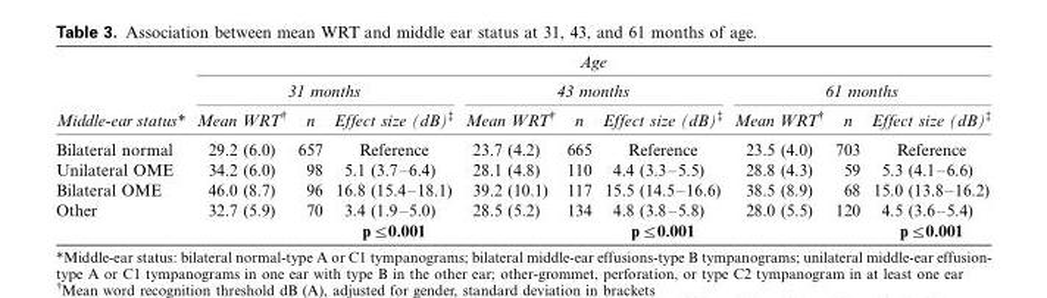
<table><thead><tr><td rowspan="3">Middle-ear status*</td><td colspan="9">Age</td></tr><tr><td colspan="3">31 months</td><td colspan="3">43 months</td><td colspan="3">61 months</td></tr><tr><td>Mean WRT†</td><td>n</td><td>Effect size (dB)‡</td><td>Mean WRT†</td><td>n</td><td>Effect size (dB)‡</td><td>Mean WRT†</td><td>n</td><td>Effect size (dB)‡</td></tr></thead><tbody><tr><td>Bilateral normal</td><td>29.2 (6.0)</td><td>657</td><td>Reference</td><td>23.7 (4.2)</td><td>665</td><td>Reference</td><td>23.5 (4.0)</td><td>703</td><td>Reference</td></tr><tr><td>Unilateral OME</td><td>34.2 (6.0)</td><td>98</td><td>5.1 (3.7–6.4)</td><td>28.1 (4.8)</td><td>110</td><td>4.4 (3.3–5.5)</td><td>28.8 (4.3)</td><td>59</td><td>5.3 (4.1–6.6)</td></tr><tr><td>Bilateral OME</td><td>46.0 (8.7)</td><td>96</td><td>16.8 (15.4–18.1)</td><td>39.2 (10.1)</td><td>117</td><td>15.5 (14.5–16.6)</td><td>38.5 (8.9)</td><td>68</td><td>15.0 (13.8–16.2)</td></tr><tr><td>Other</td><td>32.7 (5.9)</td><td>70</td><td>3.4 (1.9–5.0)</td><td>28.5 (5.2)</td><td>134</td><td>4.8 (3.8–5.8)</td><td>28.0 (5.5)</td><td>120</td><td>4.5 (3.6–5.4)</td></tr><tr><td colspan="3"></td><td>p≤0.001</td><td colspan="2"></td><td>p≤0.001</td><td colspan="2"></td><td>p≤0.001</td></tr></tbody></table>